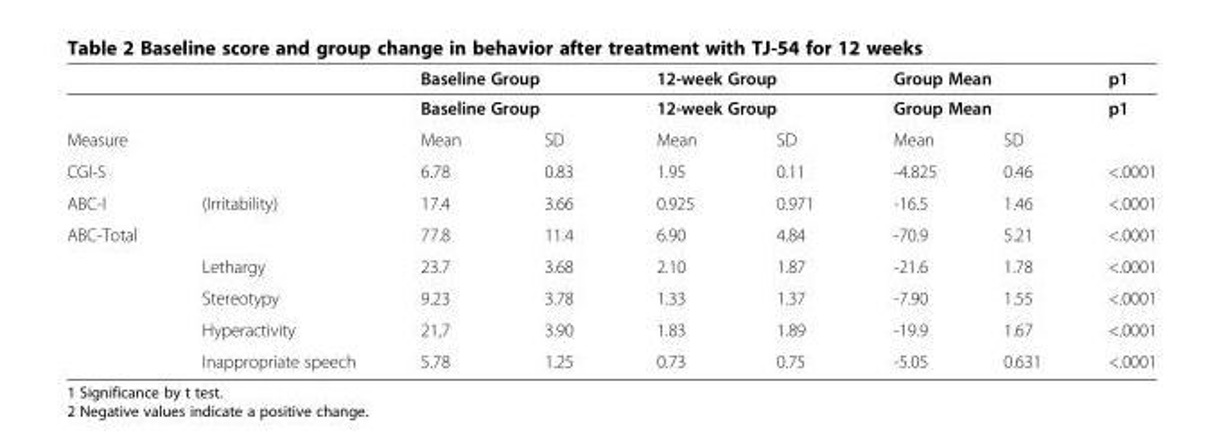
<table><thead><tr><td rowspan="3">Measure</td><td rowspan="3"></td><td rowspan="2" colspan="2">Baseline Group Baseline Group</td><td rowspan="2" colspan="2">12-week Group 12-week Group</td><td rowspan="2" colspan="2">Group Mean Group Mean</td><td rowspan="3">p1 p1</td></tr><tr></tr><tr><td>Mean</td><td>SD</td><td>Mean</td><td>SD</td><td>Mean</td><td>SD</td></tr></thead><tbody><tr><td>CGI-S</td><td></td><td>6.78</td><td>0.83</td><td>1.95</td><td>0.11</td><td>-4.825</td><td>0.46</td><td>&lt;.0001</td></tr><tr><td>ABC-I</td><td>(Irritability)</td><td>17.4</td><td>3.66</td><td>0.925</td><td>0.971</td><td>-16.5</td><td>1.46</td><td>&lt;.0001</td></tr><tr><td rowspan="5">ABC-Total</td><td></td><td>77.8</td><td>11.4</td><td>6.90</td><td>4.84</td><td>-70.9</td><td>5.21</td><td>&lt;.0001</td></tr><tr><td>Lethargy</td><td>23.7</td><td>3.68</td><td>2.10</td><td>1.87</td><td>-21.6</td><td>1.78</td><td>&lt;.0001</td></tr><tr><td>Stereotypy</td><td>9.23</td><td>3.78</td><td>1.33</td><td>1.37</td><td>-7.90</td><td>1.55</td><td>&lt;.0001</td></tr><tr><td>Hyperactivity</td><td>21,7</td><td>3.90</td><td>1.83</td><td>1.89</td><td>-19.9</td><td>1.67</td><td>&lt;.0001</td></tr><tr><td>Inappropriate speech</td><td>5.78</td><td>1.25</td><td>0.73</td><td>0.75</td><td>-5.05</td><td>0.631</td><td>&lt;.0001</td></tr></tbody></table>